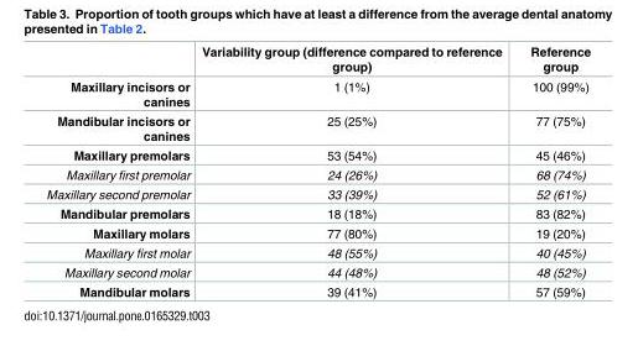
<table><thead><tr><td></td><td>Variability group (difference compared to reference group)</td><td>Reference group</td></tr></thead><tbody><tr><td>Maxillary incisors or canines</td><td>1 (1%)</td><td>100 (99%)</td></tr><tr><td>Mandibular incisors or canines</td><td>25 (25%)</td><td>77 (75%)</td></tr><tr><td>Maxillary premolars</td><td>53 (54%)</td><td>45 (46%)</td></tr><tr><td>Maxillary first premolar</td><td>24 (26%)</td><td>68 (74%)</td></tr><tr><td>Maxillary second premolar</td><td>33 (39%)</td><td>52 (61%)</td></tr><tr><td>Mandibular premolars</td><td>18 (18%)</td><td>83 (82%)</td></tr><tr><td>Maxillary molars</td><td>77 (80%)</td><td>19 (20%)</td></tr><tr><td>Maxillary first molar</td><td>48 (55%)</td><td>40 (45%)</td></tr><tr><td>Maxillary second molar</td><td>44 (48%)</td><td>48 (52%)</td></tr><tr><td>Mandibular molars</td><td>39 (41%)</td><td>57 (59%)</td></tr></tbody></table>